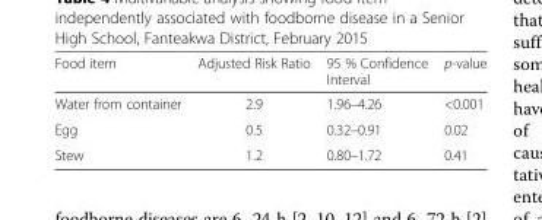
<table><thead><tr><td>Food item</td><td>Adjusted Risk Ratio</td><td>95 % Confidence Interval</td><td>p-value</td></tr></thead><tbody><tr><td>Water from container</td><td>2.9</td><td>1.96–4.26</td><td>&lt;0.001</td></tr><tr><td>Egg</td><td>0.5</td><td>0.32–0.91</td><td>0.02</td></tr><tr><td>Stew</td><td>1.2</td><td>0.80–1.72</td><td>0.41</td></tr></tbody></table>